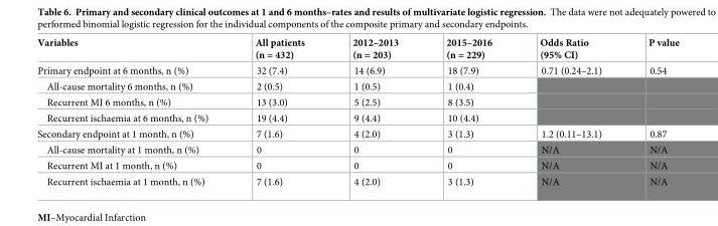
<table><thead><tr><td>Variables</td><td>All patients (n = 432)</td><td>2012–2013 (n = 203)</td><td>2015–2016 (n = 229)</td><td>Odds Ratio (95% CI)</td><td>P value</td></tr></thead><tbody><tr><td>Primary endpoint at 6 months, n (%)</td><td>32 (7.4)</td><td>14 (6.9)</td><td>18 (7.9)</td><td>0.71 (0.24–2.1)</td><td>0.54</td></tr><tr><td>All-cause mortality 6 months, n (%)</td><td>2 (0.5)</td><td>1 (0.5)</td><td>1 (0.4)</td><td></td><td></td></tr><tr><td>Recurrent MI 6 months, n (%)</td><td>13 (3.0)</td><td>5 (2.5)</td><td>8 (3.5)</td><td></td><td></td></tr><tr><td>Recurrent ischaemia at 6 months, n (%)</td><td>19 (4.4)</td><td>9 (4.4)</td><td>10 (4.4)</td><td></td><td></td></tr><tr><td>Secondary endpoint at 1 month, n (%)</td><td>7 (1.6)</td><td>4 (2.0)</td><td>3 (1.3)</td><td>1.2 (0.11–13.1)</td><td>0.87</td></tr><tr><td>All-cause mortality at 1 month, n (%)</td><td>0</td><td>0</td><td>0</td><td>N/A</td><td>N/A</td></tr><tr><td>Recurrent MI at 1 month, n (%)</td><td>0</td><td>0</td><td>0</td><td>N/A</td><td>N/A</td></tr><tr><td>Recurrent ischaemia at 1 month, n (%)</td><td>7 (1.6)</td><td>4 (2.0)</td><td>3 (1.3)</td><td>N/A</td><td>N/A</td></tr></tbody></table>